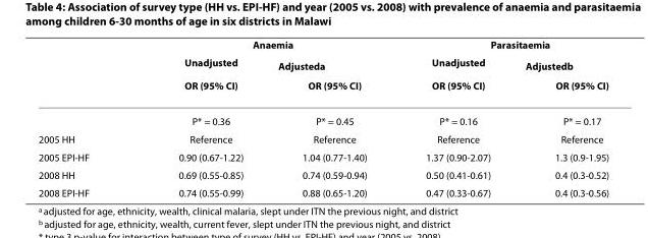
<table><thead><tr><td rowspan="3"></td><td colspan="2">Anaemia</td><td colspan="2">Parasitaemia</td></tr><tr><td rowspan="2">Unadjusted OR (95% CI)</td><td rowspan="2">Adjusted<sup>a</sup> OR (95% CI)</td><td rowspan="2">Unadjusted OR (95% CI)</td><td rowspan="2">Adjusted<sup>b</sup> OR (95% CI)</td></tr><tr></tr></thead><tbody><tr><td></td><td>P* = 0.36</td><td>P* = 0.45</td><td>P* = 0.16</td><td>P* = 0.17</td></tr><tr><td>2005 HH</td><td>Reference</td><td>Reference</td><td>Reference</td><td>Reference</td></tr><tr><td>2005 EPI-HF</td><td>0.90 (0.67-1.22)</td><td>1.04 (0.77-1.40)</td><td>1.37 (0.90-2.07)</td><td>1.3 (0.9-1.95)</td></tr><tr><td>2008 HH</td><td>0.69 (0.55-0.85)</td><td>0.74 (0.59-0.94)</td><td>0.50 (0.41-0.61)</td><td>0.4 (0.3-0.52)</td></tr><tr><td>2008 EPI-HF</td><td>0.74 (0.55-0.99)</td><td>0.88 (0.65-1.20)</td><td>0.47 (0.33-0.67)</td><td>0.4 (0.3-0.56)</td></tr></tbody></table>